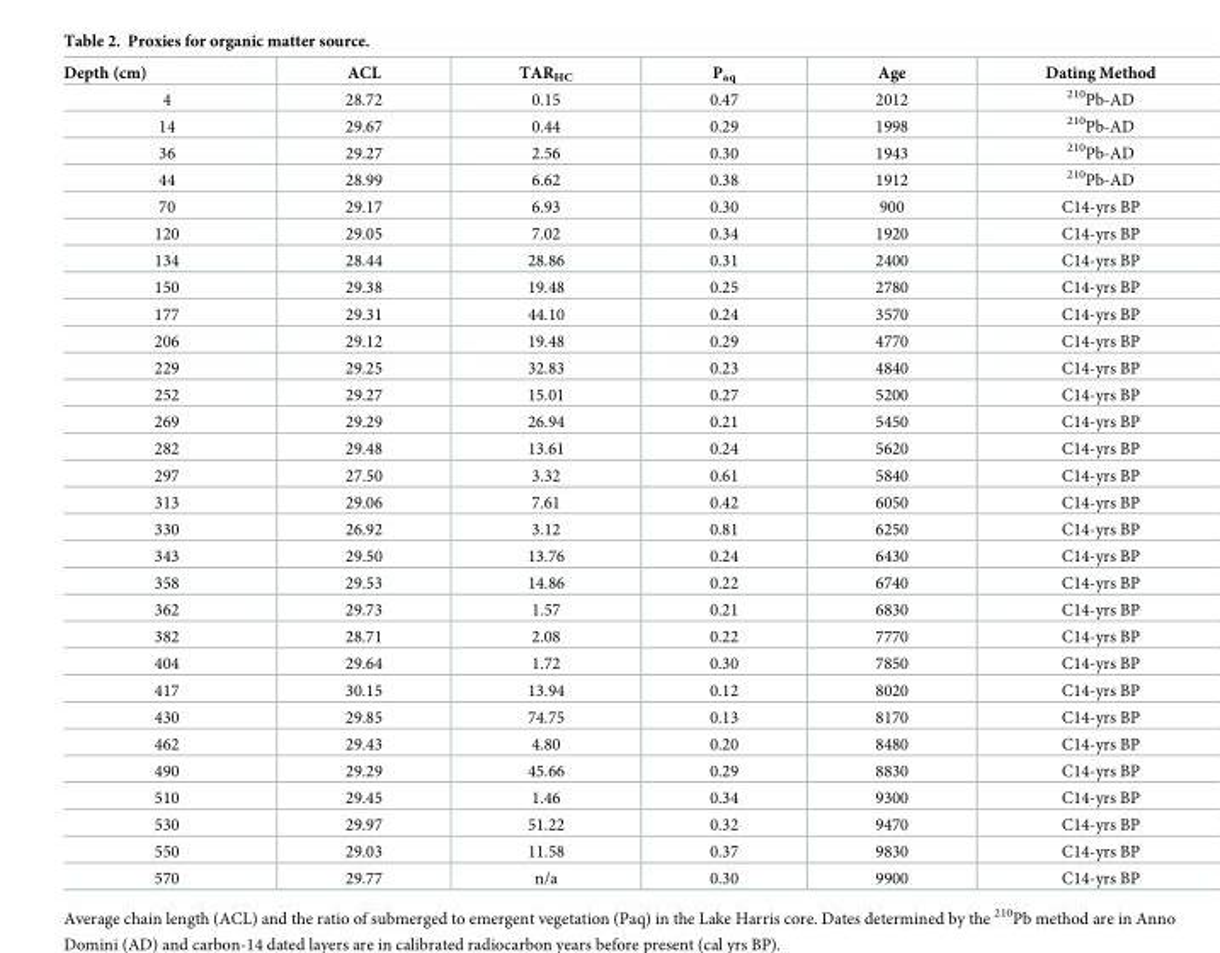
<table><thead><tr><td>Depth (cm)</td><td>ACL</td><td>TAR<sub>HC</sub></td><td>P<sub>aq</sub></td><td>Age</td><td>Dating Method</td></tr></thead><tbody><tr><td>4</td><td>28.72</td><td>0.15</td><td>0.47</td><td>2012</td><td><sup>210</sup>Pb-AD</td></tr><tr><td>14</td><td>29.67</td><td>0.44</td><td>0.29</td><td>1998</td><td><sup>210</sup>Pb-AD</td></tr><tr><td>36</td><td>29.27</td><td>2.56</td><td>0.30</td><td>1943</td><td><sup>210</sup>Pb-AD</td></tr><tr><td>44</td><td>28.99</td><td>6.62</td><td>0.38</td><td>1912</td><td><sup>210</sup>Pb-AD</td></tr><tr><td>70</td><td>29.17</td><td>6.93</td><td>0.30</td><td>900</td><td>C14-yrs BP</td></tr><tr><td>120</td><td>29.05</td><td>7.02</td><td>0.34</td><td>1920</td><td>C14-yrs BP</td></tr><tr><td>134</td><td>28.44</td><td>28.86</td><td>0.31</td><td>2400</td><td>C14-yrs BP</td></tr><tr><td>150</td><td>29.38</td><td>19.48</td><td>0.25</td><td>2780</td><td>C14-yrs BP</td></tr><tr><td>177</td><td>29.31</td><td>44.10</td><td>0.24</td><td>3570</td><td>C14-yrs BP</td></tr><tr><td>206</td><td>29.12</td><td>19.48</td><td>0.29</td><td>4770</td><td>C14-yrs BP</td></tr><tr><td>229</td><td>29.25</td><td>32.83</td><td>0.23</td><td>4840</td><td>C14-yrs BP</td></tr><tr><td>252</td><td>29.27</td><td>15.01</td><td>0.27</td><td>5200</td><td>C14-yrs BP</td></tr><tr><td>269</td><td>29.29</td><td>26.94</td><td>0.21</td><td>5450</td><td>C14-yrs BP</td></tr><tr><td>282</td><td>29.48</td><td>13.61</td><td>0.24</td><td>5620</td><td>C14-yrs BP</td></tr><tr><td>297</td><td>27.50</td><td>3.32</td><td>0.61</td><td>5840</td><td>C14-yrs BP</td></tr><tr><td>313</td><td>29.06</td><td>7.61</td><td>0.42</td><td>6050</td><td>C14-yrs BP</td></tr><tr><td>330</td><td>26.92</td><td>3.12</td><td>0.81</td><td>6250</td><td>C14-yrs BP</td></tr><tr><td>343</td><td>29.50</td><td>13.76</td><td>0.24</td><td>6430</td><td>C14-yrs BP</td></tr><tr><td>358</td><td>29.53</td><td>14.86</td><td>0.22</td><td>6740</td><td>C14-yrs BP</td></tr><tr><td>362</td><td>29.73</td><td>1.57</td><td>0.21</td><td>6830</td><td>C14-yrs BP</td></tr><tr><td>382</td><td>28.71</td><td>2.08</td><td>0.22</td><td>7770</td><td>C14-yrs BP</td></tr><tr><td>404</td><td>29.64</td><td>1.72</td><td>0.30</td><td>7850</td><td>C14-yrs BP</td></tr><tr><td>417</td><td>30.15</td><td>13.94</td><td>0.12</td><td>8020</td><td>C14-yrs BP</td></tr><tr><td>430</td><td>29.85</td><td>74.75</td><td>0.13</td><td>8170</td><td>C14-yrs BP</td></tr><tr><td>462</td><td>29.43</td><td>4.80</td><td>0.20</td><td>8480</td><td>C14-yrs BP</td></tr><tr><td>490</td><td>29.29</td><td>45.66</td><td>0.29</td><td>8830</td><td>C14-yrs BP</td></tr><tr><td>510</td><td>29.45</td><td>1.46</td><td>0.34</td><td>9300</td><td>C14-yrs BP</td></tr><tr><td>530</td><td>29.97</td><td>51.22</td><td>0.32</td><td>9470</td><td>C14-yrs BP</td></tr><tr><td>550</td><td>29.03</td><td>11.58</td><td>0.37</td><td>9830</td><td>C14-yrs BP</td></tr><tr><td>570</td><td>29.77</td><td>n/a</td><td>0.30</td><td>9900</td><td>C14-yrs BP</td></tr></tbody></table>